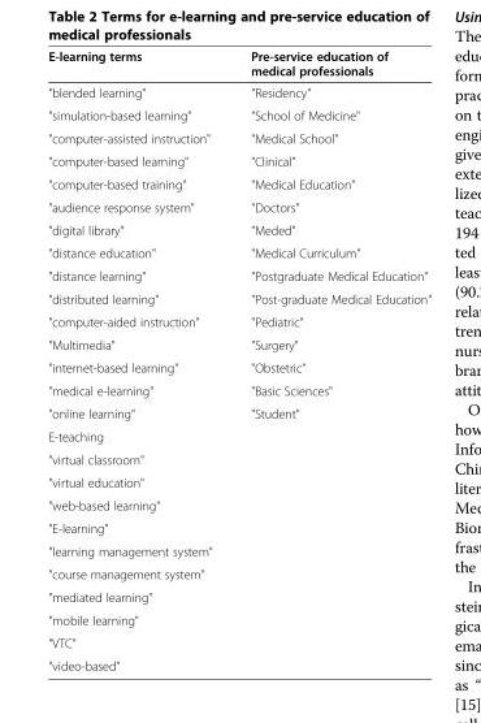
<table><thead><tr><td>E-learning terms</td><td>Pre-service education of medical professionals</td></tr></thead><tbody><tr><td>&quot;blended learning&quot;</td><td>&quot;Residency&quot;</td></tr><tr><td>&quot;simulation-based learning&quot;</td><td>&quot;School of Medicine&quot;</td></tr><tr><td>&quot;computer-assisted instruction&quot;</td><td>&quot;Medical School&quot;</td></tr><tr><td>&quot;computer-based learning&quot;</td><td>&quot;Clinical&quot;</td></tr><tr><td>&quot;computer-based training&quot;</td><td>&quot;Medical Education&quot;</td></tr><tr><td>&quot;audience response system&quot;</td><td>&quot;Doctors&quot;</td></tr><tr><td>&quot;digital library&quot;</td><td>&quot;Meded&quot;</td></tr><tr><td>&quot;distance education&quot;</td><td>&quot;Medical Curriculum&quot;</td></tr><tr><td>&quot;distance learning&quot;</td><td>&quot;Postgraduate Medical Education&quot;</td></tr><tr><td>&quot;distributed learning&quot;</td><td>&quot;Post-graduate Medical Education&quot;</td></tr><tr><td>&quot;computer-aided instruction&quot;</td><td>&quot;Pediatric&quot;</td></tr><tr><td>&quot;Multimedia&quot;</td><td>&quot;Surgery&quot;</td></tr><tr><td>&quot;internet-based learning&quot;</td><td>&quot;Obstetric&quot;</td></tr><tr><td>&quot;medical e-learning&quot;</td><td>&quot;Basic Sciences&quot;</td></tr><tr><td>&quot;online learning&quot;</td><td>&quot;Student&quot;</td></tr><tr><td colspan="2">E-teaching</td></tr><tr><td colspan="2">&quot;virtual classroom&quot;</td></tr><tr><td colspan="2">&quot;virtual education&quot;</td></tr><tr><td colspan="2">&quot;web-based learning&quot;</td></tr><tr><td colspan="2">&quot;E-learning&quot;</td></tr><tr><td colspan="2">&quot;learning management system&quot;</td></tr><tr><td colspan="2">&quot;course management system&quot;</td></tr><tr><td colspan="2">&quot;mediated learning&quot;</td></tr><tr><td colspan="2">&quot;mobile learning&quot;</td></tr><tr><td colspan="2">&quot;VTC&quot;</td></tr><tr><td>&quot;video-based&quot;</td><td></td></tr></tbody></table>